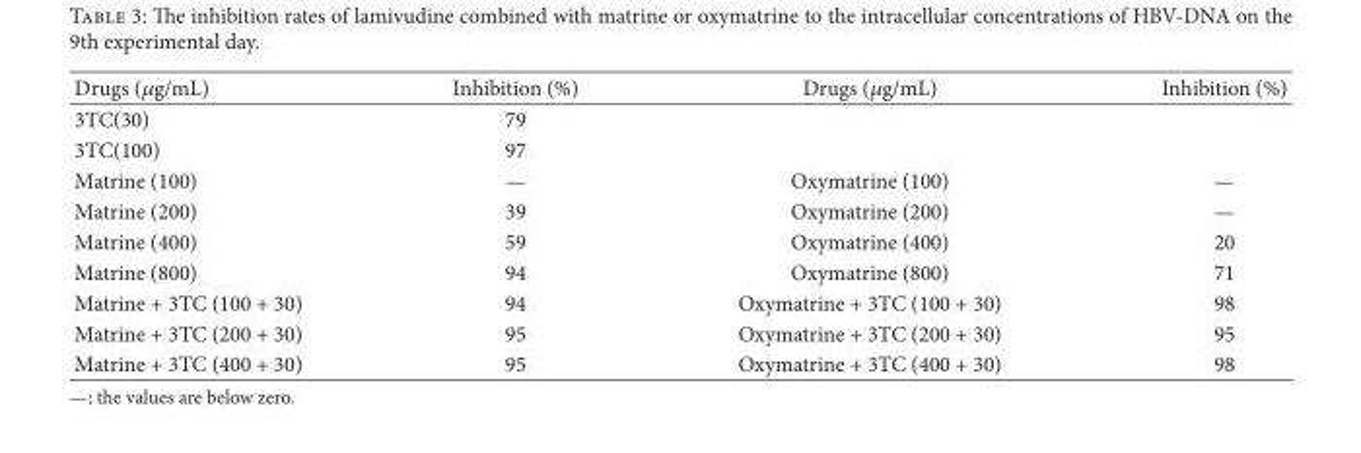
<table><thead><tr><td>Drugs (𝜇𝜇g/mL)</td><td>Inhibition (%)</td><td>Drugs (𝜇𝜇g/mL)</td><td>Inhibition (%)</td></tr></thead><tbody><tr><td>3TC(30)</td><td>79</td><td></td><td></td></tr><tr><td>3TC(100)</td><td>97</td><td></td><td></td></tr><tr><td>Matrine (100)</td><td>—</td><td>Oxymatrine (100)</td><td>—</td></tr><tr><td>Matrine (200)</td><td>39</td><td>Oxymatrine (200)</td><td>—</td></tr><tr><td>Matrine (400)</td><td>59</td><td>Oxymatrine (400)</td><td>20</td></tr><tr><td>Matrine (800)</td><td>94</td><td>Oxymatrine (800)</td><td>71</td></tr><tr><td>Matrine + 3TC (100 + 30)</td><td>94</td><td>Oxymatrine + 3TC (100 + 30)</td><td>98</td></tr><tr><td>Matrine + 3TC (200 + 30)</td><td>95</td><td>Oxymatrine + 3TC (200 + 30)</td><td>95</td></tr><tr><td>Matrine + 3TC (400 + 30)</td><td>95</td><td>Oxymatrine + 3TC (400 + 30)</td><td>98</td></tr></tbody></table>